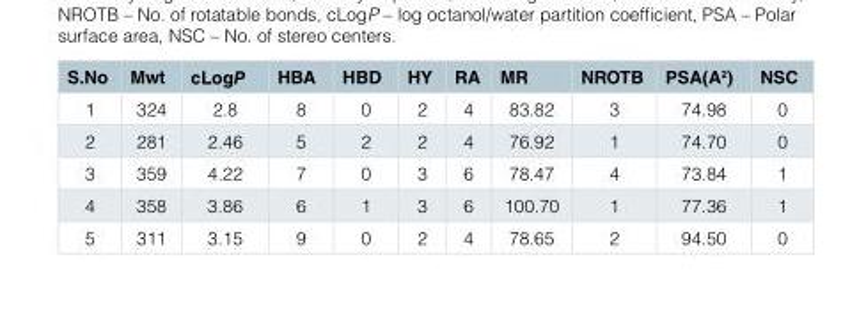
<table><thead><tr><td>S.No</td><td>Mwt</td><td>cLogP</td><td>HBA</td><td>HBD</td><td>HY</td><td>RA</td><td>MR</td><td>NROTB</td><td>PSA(A<sup>2</sup>)</td><td>NSC</td></tr></thead><tbody><tr><td>1</td><td>324</td><td>2.8</td><td>8</td><td>0</td><td>2</td><td>4</td><td>83.82</td><td>3</td><td>74.98</td><td>0</td></tr><tr><td>2</td><td>281</td><td>2.46</td><td>5</td><td>2</td><td>2</td><td>4</td><td>76.92</td><td>1</td><td>74.70</td><td>0</td></tr><tr><td>3</td><td>359</td><td>4.22</td><td>7</td><td>0</td><td>3</td><td>6</td><td>78.47</td><td>4</td><td>73.84</td><td>1</td></tr><tr><td>4</td><td>358</td><td>3.86</td><td>6</td><td>1</td><td>3</td><td>6</td><td>100.70</td><td>1</td><td>77.36</td><td>1</td></tr><tr><td>5</td><td>311</td><td>3.15</td><td>9</td><td>0</td><td>2</td><td>4</td><td>78.65</td><td>2</td><td>94.50</td><td>0</td></tr></tbody></table>